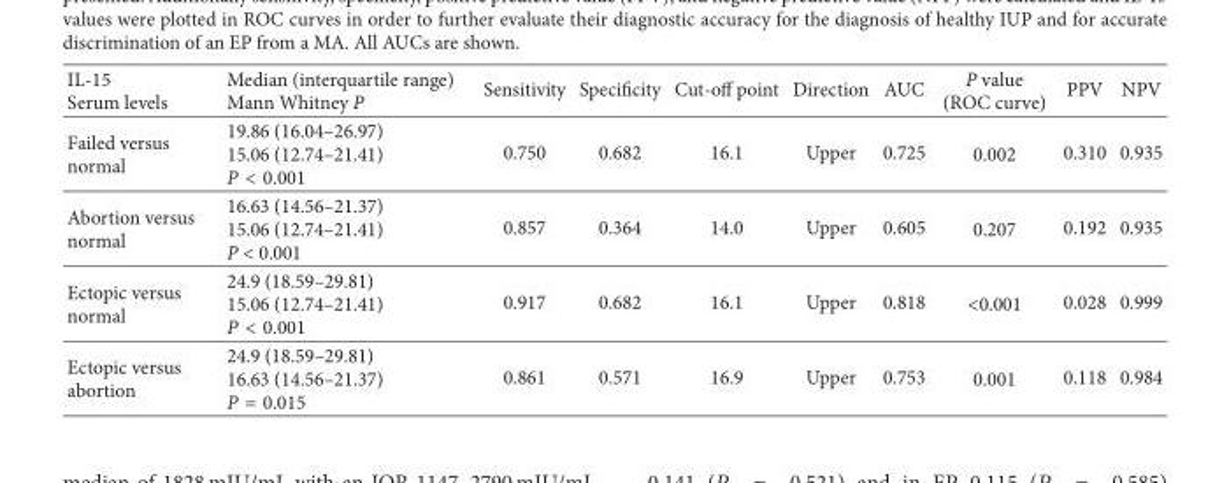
<table><thead><tr><td>IL-15 Serum levels</td><td>Median (interquartile range) Mann Whitney P</td><td>Sensitivity</td><td>Speci�city</td><td>Cut-o� point</td><td>Direction</td><td>AUC</td><td>P value (ROC curve)</td><td>PPV</td><td>NPV</td></tr></thead><tbody><tr><td>Failed versus normal</td><td>19.86 (16.04–26.97) 15.06 (12.74–21.41) P &lt; 0.001</td><td>0.750</td><td>0.682</td><td>16.1</td><td>Upper</td><td>0.725</td><td>0.002</td><td>0.310</td><td>0.935</td></tr><tr><td>Abortion versus normal</td><td>16.63 (14.56–21.37) 15.06 (12.74–21.41) P &lt; 0.001</td><td>0.857</td><td>0.364</td><td>14.0</td><td>Upper</td><td>0.605</td><td>0.207</td><td>0.192</td><td>0.935</td></tr><tr><td>Ectopic versus normal</td><td>24.9 (18.59–29.81) 15.06 (12.74–21.41) P &lt; 0.001</td><td>0.917</td><td>0.682</td><td>16.1</td><td>Upper</td><td>0.818</td><td>&lt;0.001</td><td>0.028</td><td>0.999</td></tr><tr><td>Ectopic versus abortion</td><td>24.9 (18.59–29.81) 16.63 (14.56–21.37) P = 0.015</td><td>0.861</td><td>0.571</td><td>16.9</td><td>Upper</td><td>0.753</td><td>0.001</td><td>0.118</td><td>0.984</td></tr></tbody></table>